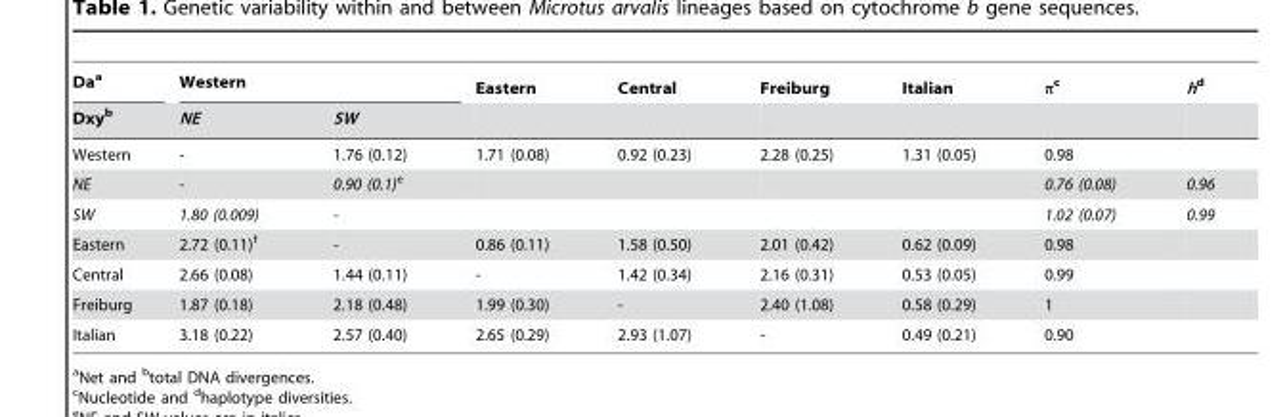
<table><thead><tr><td rowspan="2">Da<sup>a</sup> Dxy<sup>b</sup></td><td colspan="2">Western</td><td rowspan="2">Eastern</td><td rowspan="2">Central</td><td rowspan="2">Freiburg</td><td rowspan="2">Italian</td><td rowspan="2">π<sup>c</sup></td><td rowspan="2">hd</td></tr><tr><td>NE</td><td>SW</td></tr></thead><tbody><tr><td>Western</td><td>-</td><td>1.76 (0.12)</td><td>1.71 (0.08)</td><td>0.92 (0.23)</td><td>2.28 (0.25)</td><td>1.31 (0.05)</td><td>0.98</td><td></td></tr><tr><td>NE</td><td>-</td><td>0.90 (0.1)e</td><td></td><td></td><td></td><td></td><td>0.76 (0.08)</td><td>0.96</td></tr><tr><td>SW</td><td>1.80 (0.009)</td><td>-</td><td></td><td></td><td></td><td></td><td>1.02 (0.07)</td><td>0.99</td></tr><tr><td>Eastern</td><td>2.72 (0.11)<sup>f</sup></td><td>-</td><td>0.86 (0.11)</td><td>1.58 (0.50)</td><td>2.01 (0.42)</td><td>0.62 (0.09)</td><td>0.98</td><td></td></tr><tr><td>Central</td><td>2.66 (0.08)</td><td>1.44 (0.11)</td><td>-</td><td>1.42 (0.34)</td><td>2.16 (0.31)</td><td>0.53 (0.05)</td><td>0.99</td><td></td></tr><tr><td>Freiburg</td><td>1.87 (0.18)</td><td>2.18 (0.48)</td><td>1.99 (0.30)</td><td>-</td><td>2.40 (1.08)</td><td>0.58 (0.29)</td><td>1</td><td></td></tr><tr><td>Italian</td><td>3.18 (0.22)</td><td>2.57 (0.40)</td><td>2.65 (0.29)</td><td>2.93 (1.07)</td><td>-</td><td>0.49 (0.21)</td><td>0.90</td><td></td></tr></tbody></table>